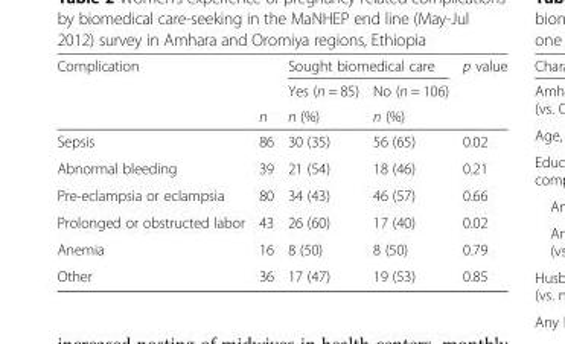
<table><thead><tr><td rowspan="3">Complication</td><td rowspan="3">n</td><td colspan="2">Sought biomedical care</td><td rowspan="3">p value</td></tr><tr><td rowspan="2">Yes (n = 85) n (%)</td><td rowspan="2">No (n = 106) n (%)</td></tr><tr></tr></thead><tbody><tr><td>Sepsis</td><td>86</td><td>30 (35)</td><td>56 (65)</td><td>0.02</td></tr><tr><td>Abnormal bleeding</td><td>39</td><td>21 (54)</td><td>18 (46)</td><td>0.21</td></tr><tr><td>Pre-eclampsia or eclampsia</td><td>80</td><td>34 (43)</td><td>46 (57)</td><td>0.66</td></tr><tr><td>Prolonged or obstructed labor</td><td>43</td><td>26 (60)</td><td>17 (40)</td><td>0.02</td></tr><tr><td>Anemia</td><td>16</td><td>8 (50)</td><td>8 (50)</td><td>0.79</td></tr><tr><td>Other</td><td>36</td><td>17 (47)</td><td>19 (53)</td><td>0.85</td></tr></tbody></table>